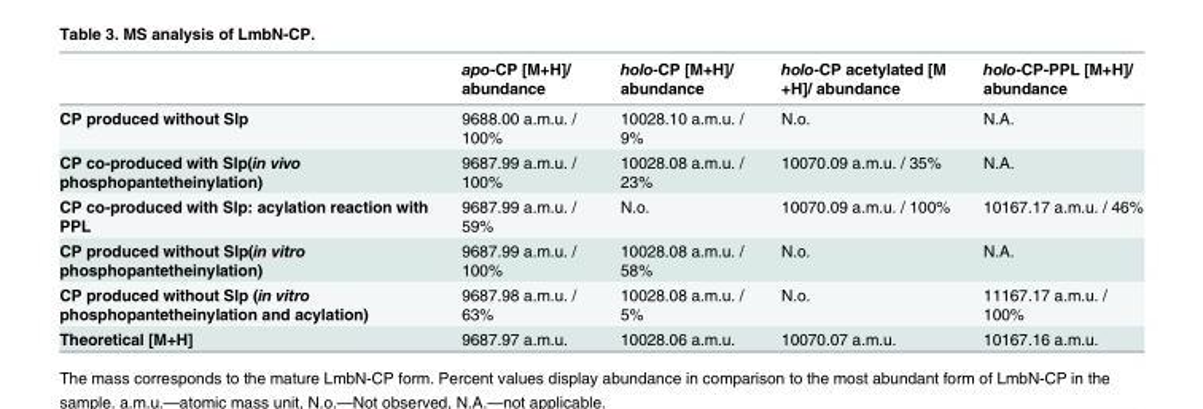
<table><thead><tr><td></td><td>apo-CP [M+H]/ abundance</td><td>holo-CP [M+H]/ abundance</td><td>holo-CP acetylated [M +H]/ abundance</td><td>holo-CP-PPL [M+H]/ abundance</td></tr></thead><tbody><tr><td>CP produced without Slp</td><td>9688.00 a.m.u. / 100%</td><td>10028.10 a.m.u. / 9%</td><td>N.o.</td><td>N.A.</td></tr><tr><td>CP co-produced with Slp(in vivo phosphopantetheinylation)</td><td>9687.99 a.m.u. / 100%</td><td>10028.08 a.m.u. / 23%</td><td>10070.09 a.m.u. / 35%</td><td>N.A.</td></tr><tr><td>CP co-produced with Slp: acylation reaction with PPL</td><td>9687.99 a.m.u. / 59%</td><td>N.o.</td><td>10070.09 a.m.u. / 100%</td><td>10167.17 a.m.u. / 46%</td></tr><tr><td>CP produced without Slp(in vitro phosphopantetheinylation)</td><td>9687.99 a.m.u. / 100%</td><td>10028.08 a.m.u. / 58%</td><td>N.o.</td><td>N.A.</td></tr><tr><td>CP produced without Slp (in vitro phosphopantetheinylation and acylation)</td><td>9687.98 a.m.u. / 63%</td><td>10028.08 a.m.u. / 5%</td><td>N.o.</td><td>11167.17 a.m.u. / 100%</td></tr><tr><td>Theoretical [M+H]</td><td>9687.97 a.m.u.</td><td>10028.06 a.m.u.</td><td>10070.07 a.m.u.</td><td>10167.16 a.m.u.</td></tr></tbody></table>